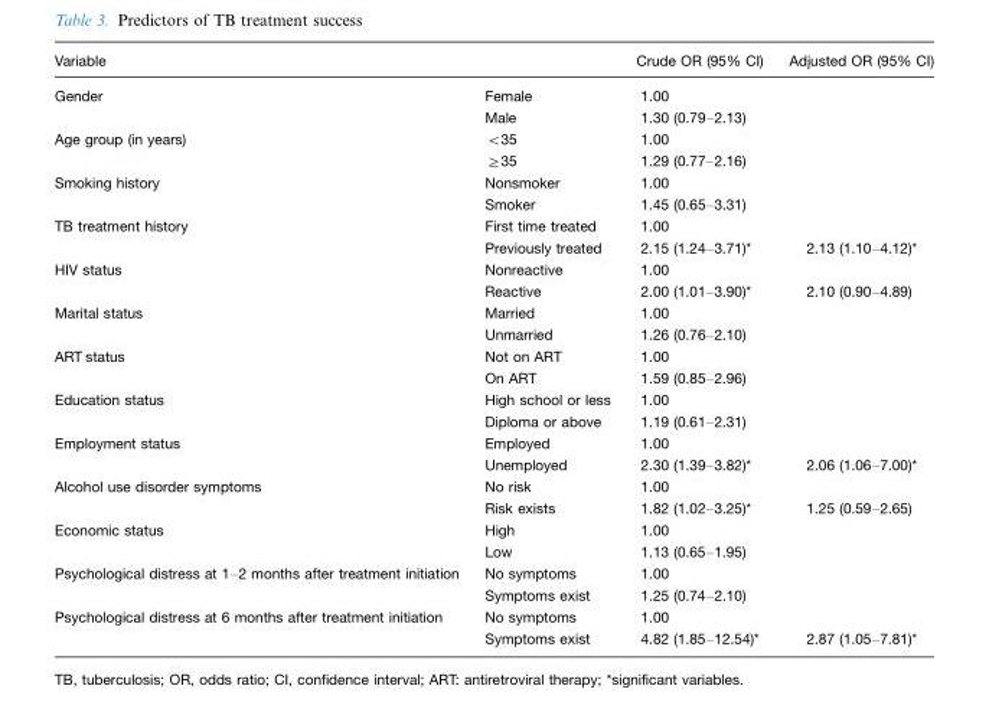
<table><thead><tr><td>Variable</td><td></td><td>Crude OR (95% CI)</td><td>Adjusted OR (95% CI)</td></tr></thead><tbody><tr><td rowspan="2">Gender</td><td>Female</td><td>1.00</td><td></td></tr><tr><td>Male</td><td>1.30 (0.79–2.13)</td><td></td></tr><tr><td rowspan="2">Age group (in years)</td><td>&lt;35</td><td>1.00</td><td></td></tr><tr><td>≥35</td><td>1.29 (0.77–2.16)</td><td></td></tr><tr><td rowspan="2">Smoking history</td><td>Nonsmoker</td><td>1.00</td><td></td></tr><tr><td>Smoker</td><td>1.45 (0.65–3.31)</td><td></td></tr><tr><td rowspan="2">TB treatment history</td><td>First time treated</td><td>1.00</td><td></td></tr><tr><td>Previously treated</td><td>2.15 (1.24–3.71)*</td><td>2.13 (1.10–4.12)*</td></tr><tr><td rowspan="2">HIV status</td><td>Nonreactive</td><td>1.00</td><td></td></tr><tr><td>Reactive</td><td>2.00 (1.01–3.90)*</td><td>2.10 (0.90–4.89)</td></tr><tr><td rowspan="2">Marital status</td><td>Married</td><td>1.00</td><td></td></tr><tr><td>Unmarried</td><td>1.26 (0.76–2.10)</td><td></td></tr><tr><td rowspan="2">ART status</td><td>Not on ART</td><td>1.00</td><td></td></tr><tr><td>On ART</td><td>1.59 (0.85–2.96)</td><td></td></tr><tr><td rowspan="2">Education status</td><td>High school or less</td><td>1.00</td><td></td></tr><tr><td>Diploma or above</td><td>1.19 (0.61–2.31)</td><td></td></tr><tr><td rowspan="2">Employment status</td><td>Employed</td><td>1.00</td><td></td></tr><tr><td>Unemployed</td><td>2.30 (1.39–3.82)*</td><td>2.06 (1.06–7.00)*</td></tr><tr><td rowspan="2">Alcohol use disorder symptoms</td><td>No risk</td><td>1.00</td><td></td></tr><tr><td>Risk exists</td><td>1.82 (1.02–3.25)*</td><td>1.25 (0.59–2.65)</td></tr><tr><td rowspan="2">Economic status</td><td>High</td><td>1.00</td><td></td></tr><tr><td>Low</td><td>1.13 (0.65–1.95)</td><td></td></tr><tr><td rowspan="2">Psychological distress at 1–2 months after treatment initiation</td><td>No symptoms</td><td>1.00</td><td></td></tr><tr><td>Symptoms exist</td><td>1.25 (0.74–2.10)</td><td></td></tr><tr><td rowspan="2">Psychological distress at 6 months after treatment initiation</td><td>No symptoms</td><td>1.00</td><td></td></tr><tr><td>Symptoms exist</td><td>4.82 (1.85–12.54)*</td><td>2.87 (1.05–7.81)*</td></tr></tbody></table>